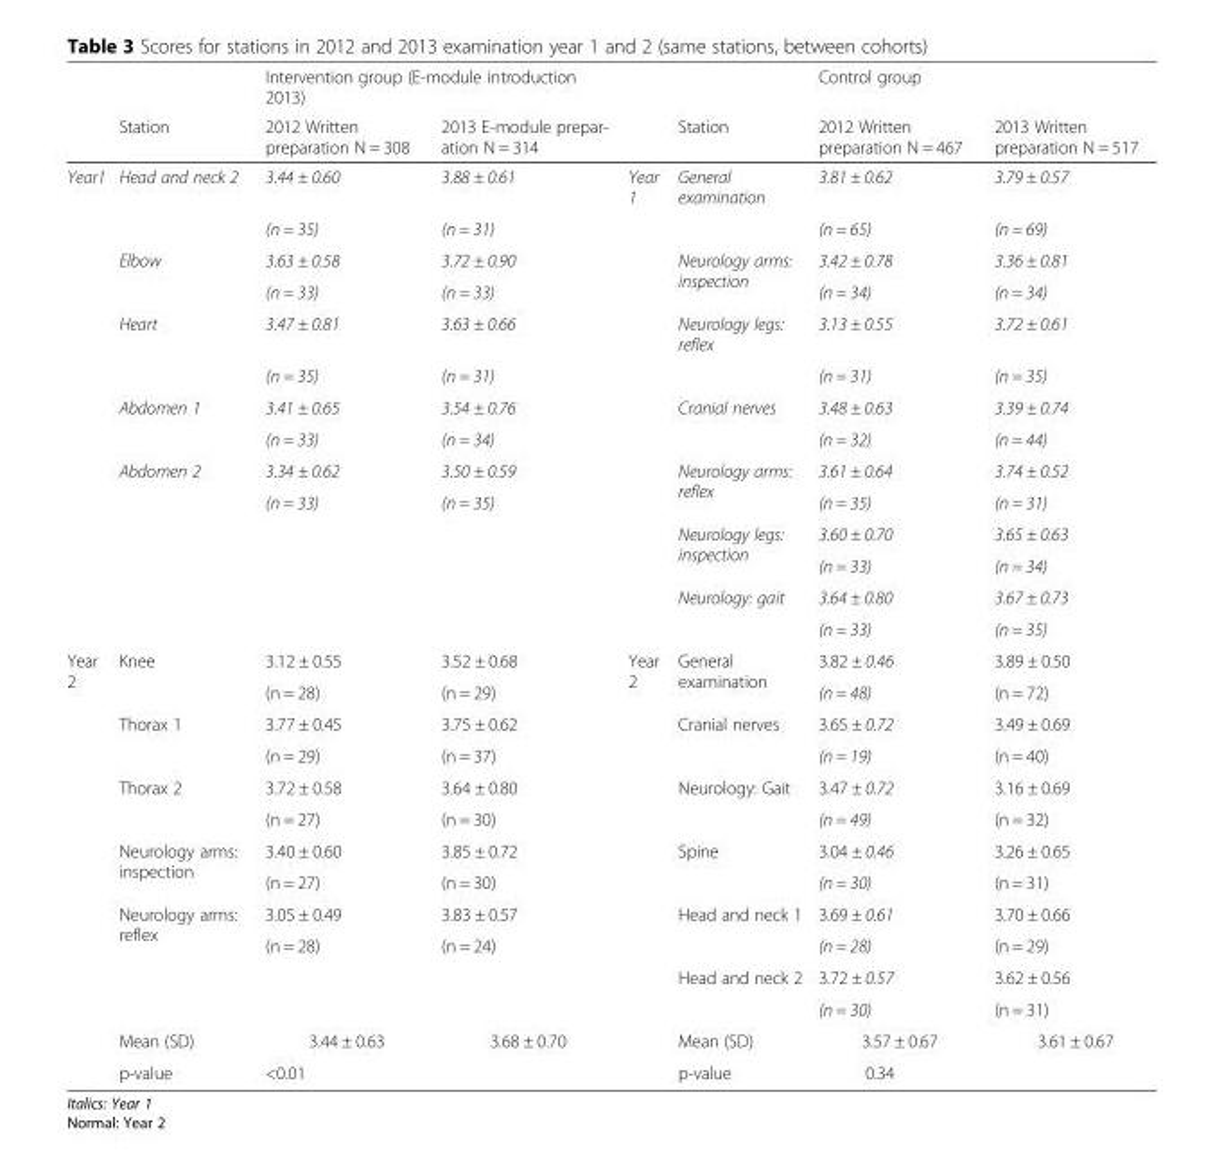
<table><thead><tr><td rowspan="2"></td><td rowspan="2">Station</td><td colspan="2">Intervention group (E-module introduction 2013)</td><td rowspan="2"></td><td rowspan="2">Station</td><td colspan="2">Control group</td></tr><tr><td>2012 Written preparation N = 308</td><td>2013 E-module prepar- ation N = 314</td><td>2012 Written preparation N = 467</td><td>2013 Written preparation N = 517</td></tr></thead><tbody><tr><td rowspan="14">Year1</td><td rowspan="2">Head and neck 2</td><td>3.44 ± 0.60</td><td>3.88 ± 0.61</td><td rowspan="14">Year 1</td><td>General examination</td><td>3.81 ± 0.62</td><td>3.79 ± 0.57</td></tr><tr><td>(n = 35)</td><td>(n = 31)</td><td></td><td>(n = 65)</td><td>(n = 69)</td></tr><tr><td rowspan="2">Elbow</td><td>3.63 ± 0.58</td><td>3.72 ± 0.90</td><td rowspan="2">Neurology arms: inspection</td><td>3.42 ± 0.78</td><td>3.36 ± 0.81</td></tr><tr><td>(n = 33)</td><td>(n = 33)</td><td>(n = 34)</td><td>(n = 34)</td></tr><tr><td rowspan="2">Heart</td><td>3.47 ± 0.81</td><td>3.63 ± 0.66</td><td>Neurology legs: reflex</td><td>3.13 ± 0.55</td><td>3.72 ± 0.61</td></tr><tr><td>(n = 35)</td><td>(n = 31)</td><td></td><td>(n = 31)</td><td>(n = 35)</td></tr><tr><td rowspan="2">Abdomen 1</td><td>3.41 ± 0.65</td><td>3.54 ± 0.76</td><td>Cranial nerves</td><td>3.48 ± 0.63</td><td>3.39 ± 0.74</td></tr><tr><td>(n = 33)</td><td>(n = 34)</td><td></td><td>(n = 32)</td><td>(n = 44)</td></tr><tr><td rowspan="2">Abdomen 2</td><td>3.34 ± 0.62</td><td>3.50 ± 0.59</td><td rowspan="2">Neurology arms: reflex</td><td>3.61 ± 0.64</td><td>3.74 ± 0.52</td></tr><tr><td>(n = 33)</td><td>(n = 35)</td><td>(n = 35)</td><td>(n = 31)</td></tr><tr><td rowspan="2"></td><td rowspan="2"></td><td rowspan="2"></td><td rowspan="2">Neurology legs: inspection</td><td>3.60 ± 0.70</td><td>3.65 ± 0.63</td></tr><tr><td>(n = 33)</td><td>(n = 34)</td></tr><tr><td rowspan="2"></td><td rowspan="2"></td><td rowspan="2"></td><td rowspan="2">Neurology: gait</td><td>3.64 ± 0.80</td><td>3.67 ± 0.73</td></tr><tr><td>(n = 33)</td><td>(n = 35)</td></tr><tr><td rowspan="14">Year 2</td><td rowspan="2">Knee</td><td>3.12 ± 0.55</td><td>3.52 ± 0.68</td><td rowspan="14">Year 2</td><td rowspan="2">General examination</td><td>3.82 ± 0.46</td><td>3.89 ± 0.50</td></tr><tr><td>(n = 28)</td><td>(n = 29)</td><td>(n = 48)</td><td>(n = 72)</td></tr><tr><td rowspan="2">Thorax 1</td><td>3.77 ± 0.45</td><td>3.75 ± 0.62</td><td rowspan="2">Cranial nerves</td><td>3.65 ± 0.72</td><td>3.49 ± 0.69</td></tr><tr><td>(n = 29)</td><td>(n = 37)</td><td>(n = 19)</td><td>(n = 40)</td></tr><tr><td rowspan="2">Thorax 2</td><td>3.72 ± 0.58</td><td>3.64 ± 0.80</td><td rowspan="2">Neurology: Gait</td><td>3.47 ± 0.72</td><td>3.16 ± 0.69</td></tr><tr><td>(n = 27)</td><td>(n = 30)</td><td>(n = 49)</td><td>(n = 32)</td></tr><tr><td rowspan="2">Neurology arms: inspection</td><td>3.40 ± 0.60</td><td>3.85 ± 0.72</td><td rowspan="2">Spine</td><td>3.04 ± 0.46</td><td>3.26 ± 0.65</td></tr><tr><td>(n = 27)</td><td>(n = 30)</td><td>(n = 30)</td><td>(n = 31)</td></tr><tr><td rowspan="2">Neurology arms: reflex</td><td>3.05 ± 0.49</td><td>3.83 ± 0.57</td><td rowspan="2">Head and neck 1</td><td>3.69 ± 0.61</td><td>3.70 ± 0.66</td></tr><tr><td>(n = 28)</td><td>(n = 24)</td><td>(n = 28)</td><td>(n = 29)</td></tr><tr><td rowspan="2"></td><td rowspan="2"></td><td rowspan="2"></td><td rowspan="2">Head and neck 2</td><td>3.72 ± 0.57</td><td>3.62 ± 0.56</td></tr><tr><td>(n = 30)</td><td>(n = 31)</td></tr><tr><td>Mean (SD)</td><td>3.44 ± 0.63</td><td>3.68 ± 0.70</td><td>Mean (SD)</td><td>3.57 ± 0.67</td><td>3.61 ± 0.67</td></tr><tr><td>p-value</td><td colspan="2">&lt;0.01</td><td>p-value</td><td colspan="2">0.34</td></tr></tbody></table>